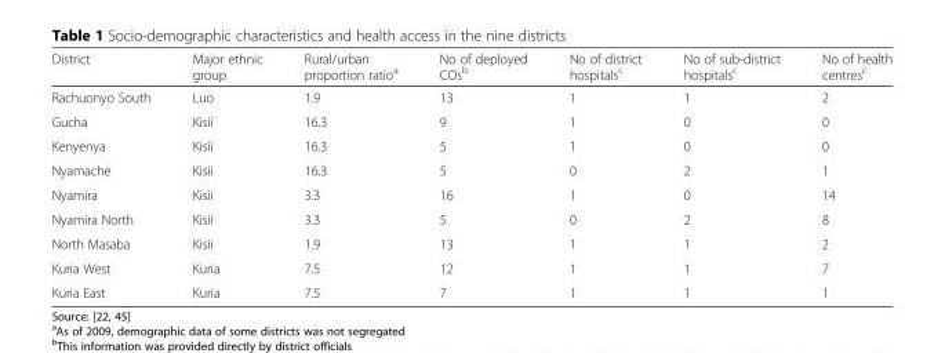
<table><thead><tr><td>District</td><td>Major ethnic group</td><td>Rural/urban proportion ratio<sup>a</sup></td><td>No of deployed COs<sup>b</sup></td><td>No of district hospitals<sup>c</sup></td><td>No of sub-district hospitals<sup>c</sup></td><td>No of health centres<sup>c</sup></td></tr></thead><tbody><tr><td>Rachuonyo South</td><td>Luo</td><td>1.9</td><td>13</td><td>1</td><td>1</td><td>2</td></tr><tr><td>Gucha</td><td>Kisii</td><td>16.3</td><td>9</td><td>1</td><td>0</td><td>0</td></tr><tr><td>Kenyenya</td><td>Kisii</td><td>16.3</td><td>5</td><td>1</td><td>0</td><td>0</td></tr><tr><td>Nyamache</td><td>Kisii</td><td>16.3</td><td>5</td><td>0</td><td>2</td><td>1</td></tr><tr><td>Nyamira</td><td>Kisii</td><td>3.3</td><td>16</td><td>1</td><td>0</td><td>14</td></tr><tr><td>Nyamira North</td><td>Kisii</td><td>3.3</td><td>5</td><td>0</td><td>2</td><td>8</td></tr><tr><td>North Masaba</td><td>Kisii</td><td>1.9</td><td>13</td><td>1</td><td>1</td><td>2</td></tr><tr><td>Kuria West</td><td>Kuria</td><td>7.5</td><td>12</td><td>1</td><td>1</td><td>7</td></tr><tr><td>Kuria East</td><td>Kuria</td><td>7.5</td><td>7</td><td>1</td><td>1</td><td>1</td></tr></tbody></table>